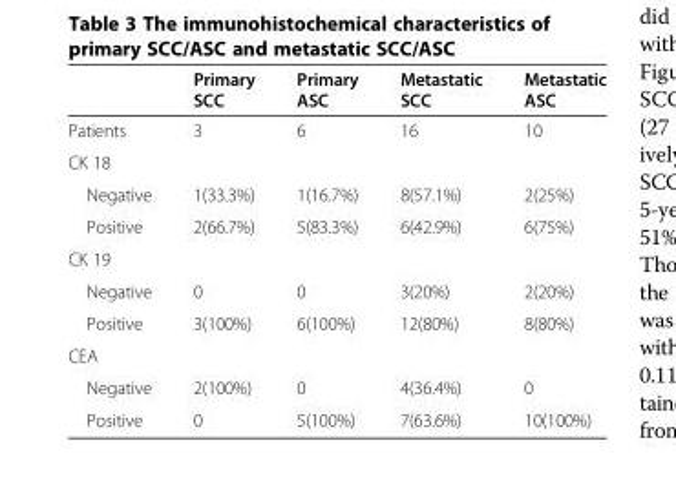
<table><thead><tr><td></td><td>Primary SCC</td><td>Primary ASC</td><td>Metastatic SCC</td><td>Metastatic ASC</td></tr></thead><tbody><tr><td>Patients</td><td>3</td><td>6</td><td>16</td><td>10</td></tr><tr><td colspan="5">CK 18</td></tr><tr><td>Negative</td><td>1(33.3%)</td><td>1(16.7%)</td><td>8(57.1%)</td><td>2(25%)</td></tr><tr><td>Positive</td><td>2(66.7%)</td><td>5(83.3%)</td><td>6(42.9%)</td><td>6(75%)</td></tr><tr><td colspan="5">CK 19</td></tr><tr><td>Negative</td><td>0</td><td>0</td><td>3(20%)</td><td>2(20%)</td></tr><tr><td>Positive</td><td>3(100%)</td><td>6(100%)</td><td>12(80%)</td><td>8(80%)</td></tr><tr><td colspan="5">CEA</td></tr><tr><td>Negative</td><td>2(100%)</td><td>0</td><td>4(36.4%)</td><td>0</td></tr><tr><td>Positive</td><td>0</td><td>5(100%)</td><td>7(63.6%)</td><td>10(100%)</td></tr></tbody></table>